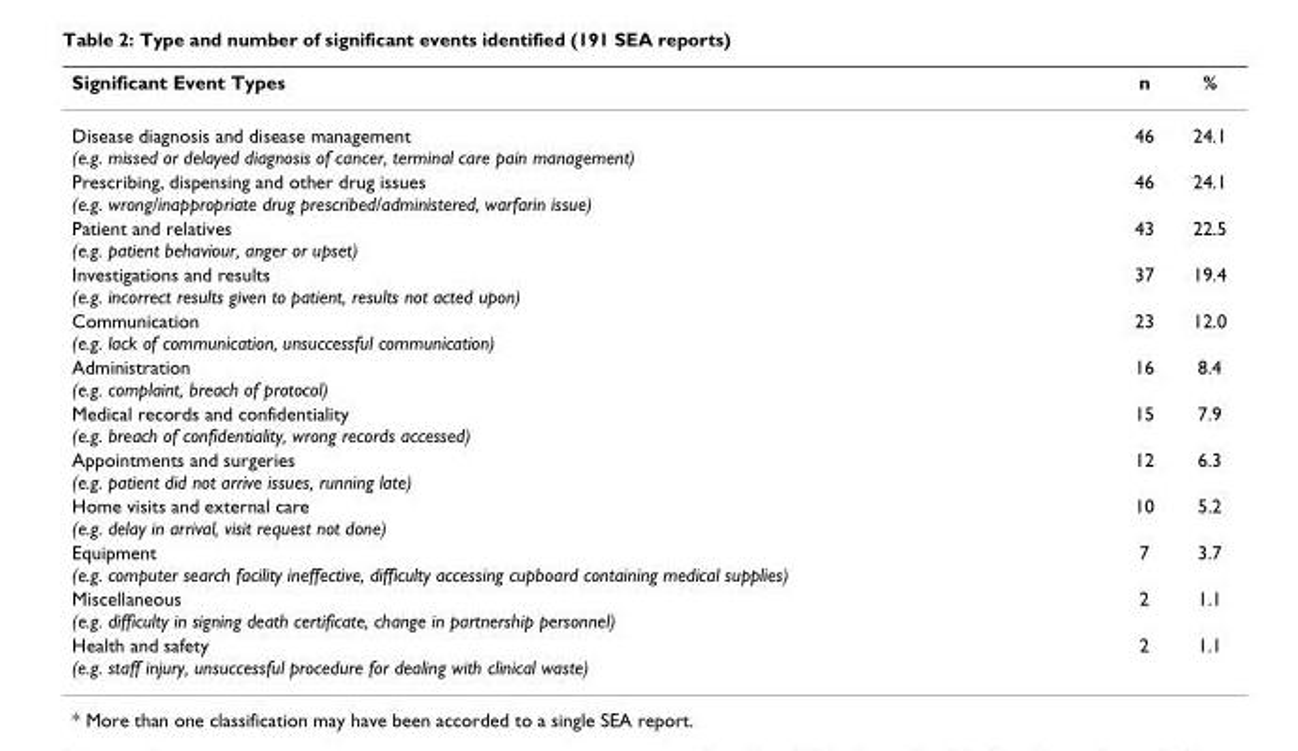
<table><thead><tr><td>Significant Event Types</td><td>n</td><td>%</td></tr></thead><tbody><tr><td>Disease diagnosis and disease management (e.g. missed or delayed diagnosis of cancer, terminal care pain management)</td><td>46</td><td>24.1</td></tr><tr><td>Prescribing, dispensing and other drug issues (e.g. wrong/inappropriate drug prescribed/administered, warfarin issue)</td><td>46</td><td>24.1</td></tr><tr><td>Patient and relatives (e.g. patient behaviour, anger or upset)</td><td>43</td><td>22.5</td></tr><tr><td>Investigations and results (e.g. incorrect results given to patient, results not acted upon)</td><td>37</td><td>19.4</td></tr><tr><td>Communication (e.g. lack of communication, unsuccessful communication)</td><td>23</td><td>12.0</td></tr><tr><td>Administration (e.g. complaint, breach of protocol)</td><td>16</td><td>8.4</td></tr><tr><td>Medical records and confidentiality (e.g. breach of confidentiality, wrong records accessed)</td><td>15</td><td>7.9</td></tr><tr><td>Appointments and surgeries (e.g. patient did not arrive issues, running late)</td><td>12</td><td>6.3</td></tr><tr><td>Home visits and external care (e.g. delay in arrival, visit request not done)</td><td>10</td><td>5.2</td></tr><tr><td>Equipment (e.g. computer search facility ineffective, difficulty accessing cupboard containing medical supplies)</td><td>7</td><td>3.7</td></tr><tr><td>Miscellaneous (e.g. difficulty in signing death certificate, change in partnership personnel)</td><td>2</td><td>1.1</td></tr><tr><td>Health and safety (e.g. staff injury, unsuccessful procedure for dealing with clinical waste)</td><td>2</td><td>1.1</td></tr></tbody></table>